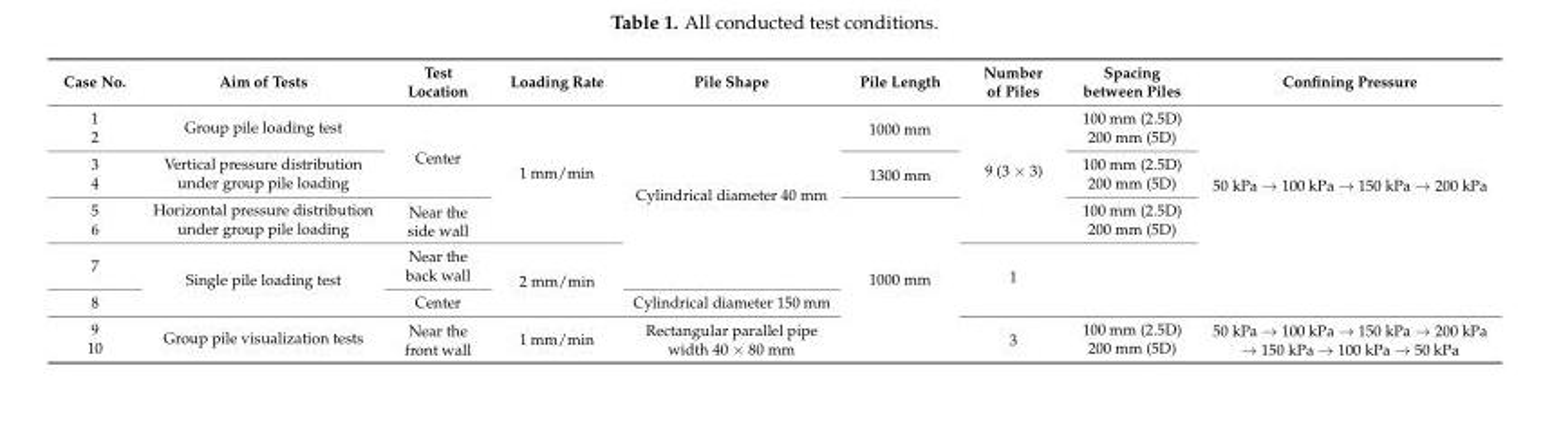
<table><thead><tr><td>Case No.</td><td>Aim of Tests</td><td>Test Location</td><td>Loading Rate</td><td>Pile Shape</td><td>Pile Length</td><td>Number of Piles</td><td>Spacing between Piles</td><td>Confining Pressure</td></tr></thead><tbody><tr><td>1</td><td rowspan="2">Group pile loading test</td><td rowspan="4">Center</td><td rowspan="6">1 mm/min</td><td rowspan="7">Cylindrical diameter 40 mm</td><td rowspan="2">1000 mm</td><td rowspan="6">9 (3 × 3)</td><td>100 mm (2.5D)</td><td rowspan="8">50 kPa → 100 kPa → 150 kPa → 200 kPa</td></tr><tr><td>2</td><td>200 mm (5D)</td></tr><tr><td>3</td><td rowspan="2">Vertical pressure distribution under group pile loading</td><td rowspan="2">1300 mm</td><td>100 mm (2.5D)</td></tr><tr><td>4</td><td>200 mm (5D)</td></tr><tr><td>5</td><td rowspan="2">Horizontal pressure distribution under group pile loading</td><td rowspan="2">Near the side wall</td><td rowspan="6">1000 mm</td><td>100 mm (2.5D)</td></tr><tr><td>6</td><td>200 mm (5D)</td></tr><tr><td>7</td><td rowspan="2">Single pile loading test</td><td>Near the back wall</td><td rowspan="2">2 mm/min</td><td rowspan="2">1</td><td rowspan="2"></td></tr><tr><td>8</td><td>Center</td><td>Cylindrical diameter 150 mm</td></tr><tr><td>9</td><td rowspan="2">Group pile visualization tests</td><td rowspan="2">Near the front wall</td><td rowspan="2">1 mm/min</td><td rowspan="2">Rectangular parallel pipe width 40 × 80 mm</td><td rowspan="2">3</td><td>100 mm (2.5D)</td><td rowspan="2">50 kPa → 100 kPa → 150 kPa → 200 kPa → 150 kPa → 100 kPa → 50 kPa</td></tr><tr><td>10</td><td>200 mm (5D)</td></tr></tbody></table>